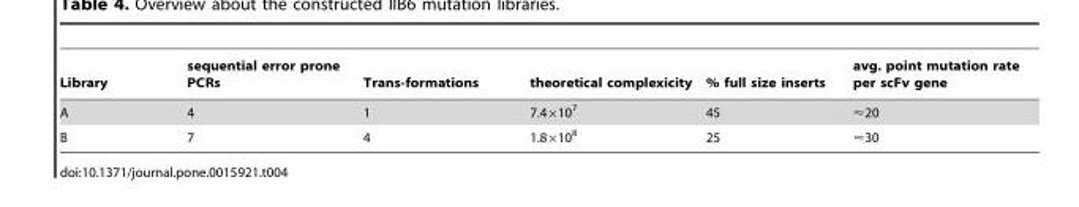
<table><thead><tr><td>Library</td><td>sequential error prone PCRs</td><td>Trans-formations</td><td>theoretical complexicity</td><td>% full size inserts</td><td>avg. point mutation rate per scFv gene</td></tr></thead><tbody><tr><td>A</td><td>4</td><td>1</td><td>7.4×10<sup>7</sup></td><td>45</td><td>&lt;20</td></tr><tr><td>B</td><td>7</td><td>4</td><td>1.8×10<sup>8</sup></td><td>25</td><td>&lt;30</td></tr></tbody></table>